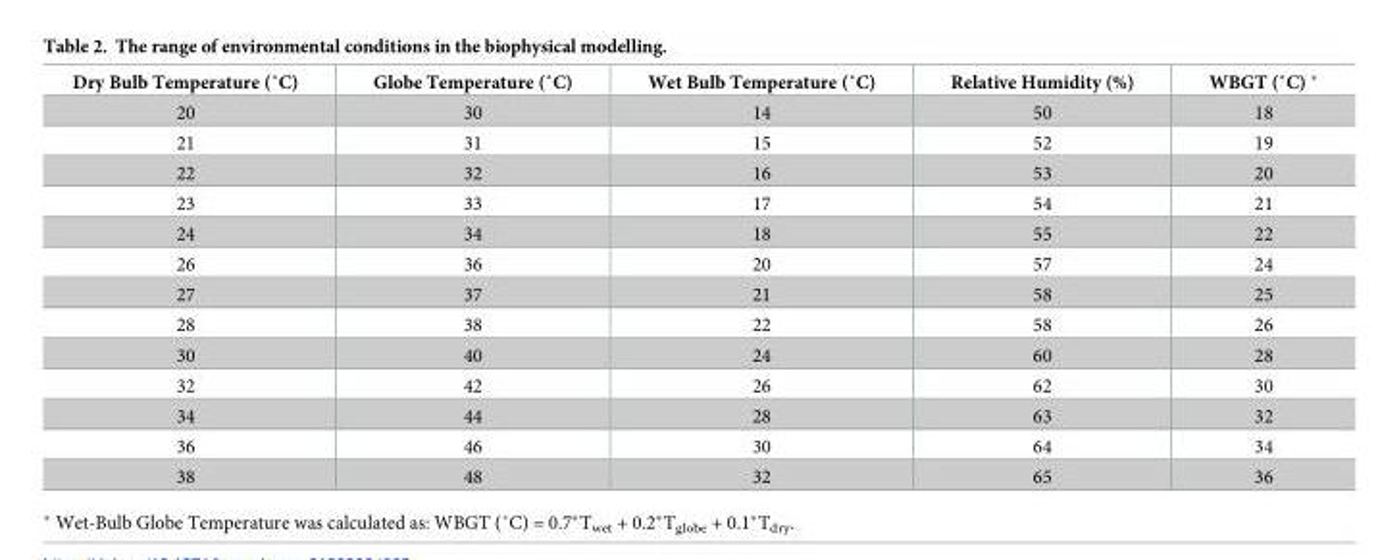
<table><thead><tr><td>Dry Bulb Temperature (˚C)</td><td>Globe Temperature (˚C)</td><td>Wet Bulb Temperature (˚C)</td><td>Relative Humidity (%)</td><td>WBGT (˚C)</td></tr></thead><tbody><tr><td>20</td><td>30</td><td>14</td><td>50</td><td>18</td></tr><tr><td>21</td><td>31</td><td>15</td><td>52</td><td>19</td></tr><tr><td>22</td><td>32</td><td>16</td><td>53</td><td>20</td></tr><tr><td>23</td><td>33</td><td>17</td><td>54</td><td>21</td></tr><tr><td>24</td><td>34</td><td>18</td><td>55</td><td>22</td></tr><tr><td>26</td><td>36</td><td>20</td><td>57</td><td>24</td></tr><tr><td>27</td><td>37</td><td>21</td><td>58</td><td>25</td></tr><tr><td>28</td><td>38</td><td>22</td><td>58</td><td>26</td></tr><tr><td>30</td><td>40</td><td>24</td><td>60</td><td>28</td></tr><tr><td>32</td><td>42</td><td>26</td><td>62</td><td>30</td></tr><tr><td>34</td><td>44</td><td>28</td><td>63</td><td>32</td></tr><tr><td>36</td><td>46</td><td>30</td><td>64</td><td>34</td></tr><tr><td>38</td><td>48</td><td>32</td><td>65</td><td>36</td></tr></tbody></table>